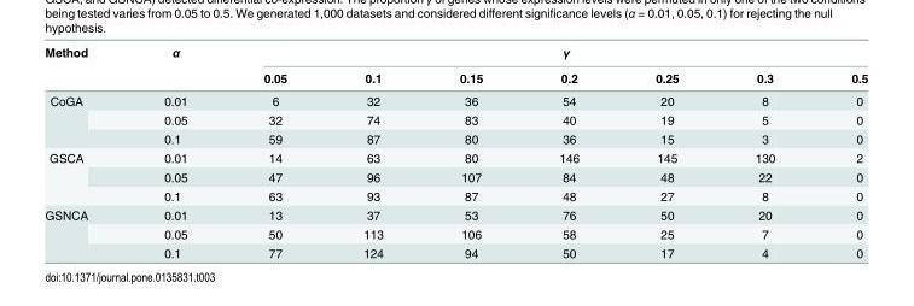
<table><thead><tr><td rowspan="2">Method</td><td rowspan="2">α</td><td colspan="7">γ</td></tr><tr><td>0.05</td><td>0.1</td><td>0.15</td><td>0.2</td><td>0.25</td><td>0.3</td><td>0.5</td></tr></thead><tbody><tr><td rowspan="3">CoGA</td><td>0.01</td><td>6</td><td>32</td><td>36</td><td>54</td><td>20</td><td>8</td><td>0</td></tr><tr><td>0.05</td><td>32</td><td>74</td><td>83</td><td>40</td><td>19</td><td>5</td><td>0</td></tr><tr><td>0.1</td><td>59</td><td>87</td><td>80</td><td>36</td><td>15</td><td>3</td><td>0</td></tr><tr><td rowspan="3">GSCA</td><td>0.01</td><td>14</td><td>63</td><td>80</td><td>146</td><td>145</td><td>130</td><td>2</td></tr><tr><td>0.05</td><td>47</td><td>96</td><td>107</td><td>84</td><td>48</td><td>22</td><td>0</td></tr><tr><td>0.1</td><td>63</td><td>93</td><td>87</td><td>48</td><td>27</td><td>8</td><td>0</td></tr><tr><td rowspan="3">GSNCA</td><td>0.01</td><td>13</td><td>37</td><td>53</td><td>76</td><td>50</td><td>20</td><td>0</td></tr><tr><td>0.05</td><td>50</td><td>113</td><td>106</td><td>58</td><td>25</td><td>7</td><td>0</td></tr><tr><td>0.1</td><td>77</td><td>124</td><td>94</td><td>50</td><td>17</td><td>4</td><td>0</td></tr></tbody></table>